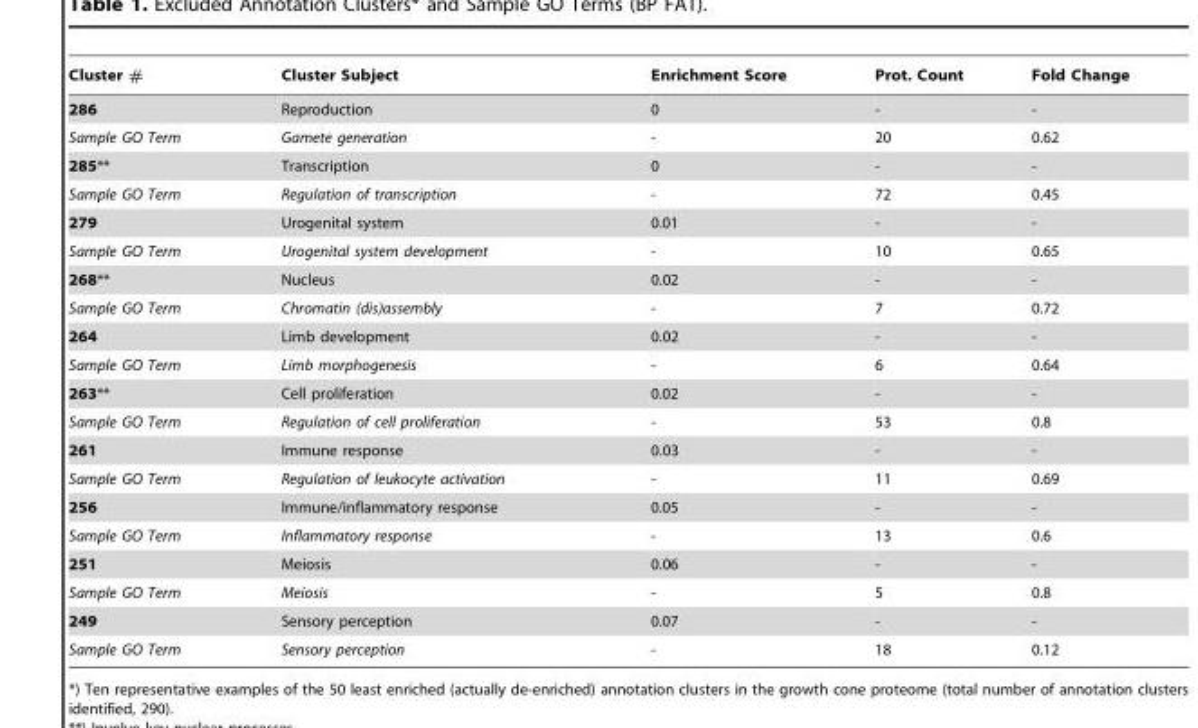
<table><thead><tr><td>Cluster #</td><td>Cluster Subject</td><td>Enrichment Score</td><td>Prot. Count</td><td>Fold Change</td></tr></thead><tbody><tr><td>286</td><td>Reproduction</td><td>0</td><td>-</td><td>-</td></tr><tr><td>Sample GO Term</td><td>Gamete generation</td><td>-</td><td>20</td><td>0.62</td></tr><tr><td>285**</td><td>Transcription</td><td>0</td><td>-</td><td>-</td></tr><tr><td>Sample GO Term</td><td>Regulation of transcription</td><td>-</td><td>72</td><td>0.45</td></tr><tr><td>279</td><td>Urogenital system</td><td>0.01</td><td>-</td><td>-</td></tr><tr><td>Sample GO Term</td><td>Urogenital system development</td><td>-</td><td>10</td><td>0.65</td></tr><tr><td>268**</td><td>Nucleus</td><td>0.02</td><td>-</td><td>-</td></tr><tr><td>Sample GO Term</td><td>Chromatin (dis)assembly</td><td>-</td><td>7</td><td>0.72</td></tr><tr><td>264</td><td>Limb development</td><td>0.02</td><td>-</td><td>-</td></tr><tr><td>Sample GO Term</td><td>Limb morphogenesis</td><td>-</td><td>6</td><td>0.64</td></tr><tr><td>263**</td><td>Cell proliferation</td><td>0.02</td><td>-</td><td>-</td></tr><tr><td>Sample GO Term</td><td>Regulation of cell proliferation</td><td>-</td><td>53</td><td>0.8</td></tr><tr><td>261</td><td>Immune response</td><td>0.03</td><td>-</td><td>-</td></tr><tr><td>Sample GO Term</td><td>Regulation of leukocyte activation</td><td>-</td><td>11</td><td>0.69</td></tr><tr><td>256</td><td>Immune/inflammatory response</td><td>0.05</td><td>-</td><td>-</td></tr><tr><td>Sample GO Term</td><td>Inflammatory response</td><td>-</td><td>13</td><td>0.6</td></tr><tr><td>251</td><td>Meiosis</td><td>0.06</td><td>-</td><td>-</td></tr><tr><td>Sample GO Term</td><td>Meiosis</td><td>-</td><td>5</td><td>0.8</td></tr><tr><td>249</td><td>Sensory perception</td><td>0.07</td><td>-</td><td>-</td></tr><tr><td>Sample GO Term</td><td>Sensory perception</td><td>-</td><td>18</td><td>0.12</td></tr></tbody></table>